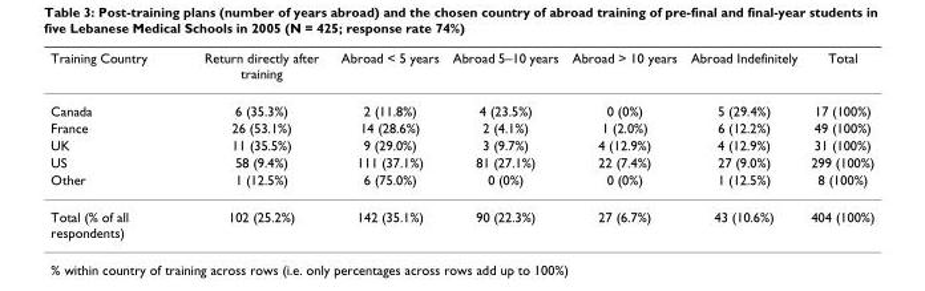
<table><thead><tr><td>Training Country</td><td>Return directly after training</td><td>Abroad &lt; 5 years</td><td>Abroad 5–10 years</td><td>Abroad &gt; 10 years</td><td>Abroad Indefinitely</td><td>Total</td></tr></thead><tbody><tr><td>Canada</td><td>6 (35.3%)</td><td>2 (11.8%)</td><td>4 (23.5%)</td><td>0 (0%)</td><td>5 (29.4%)</td><td>17 (100%)</td></tr><tr><td>France</td><td>26 (53.1%)</td><td>14 (28.6%)</td><td>2 (4.1%)</td><td>1 (2.0%)</td><td>6 (12.2%)</td><td>49 (100%)</td></tr><tr><td>UK</td><td>11 (35.5%)</td><td>9 (29.0%)</td><td>3 (9.7%)</td><td>4 (12.9%)</td><td>4 (12.9%)</td><td>31 (100%)</td></tr><tr><td>US</td><td>58 (9.4%)</td><td>111 (37.1%)</td><td>81 (27.1%)</td><td>22 (7.4%)</td><td>27 (9.0%)</td><td>299 (100%)</td></tr><tr><td>Other</td><td>1 (12.5%)</td><td>6 (75.0%)</td><td>0 (0%)</td><td>0 (0%)</td><td>1 (12.5%)</td><td>8 (100%)</td></tr><tr><td>Total (% of all respondents)</td><td>102 (25.2%)</td><td>142 (35.1%)</td><td>90 (22.3%)</td><td>27 (6.7%)</td><td>43 (10.6%)</td><td>404 (100%)</td></tr></tbody></table>